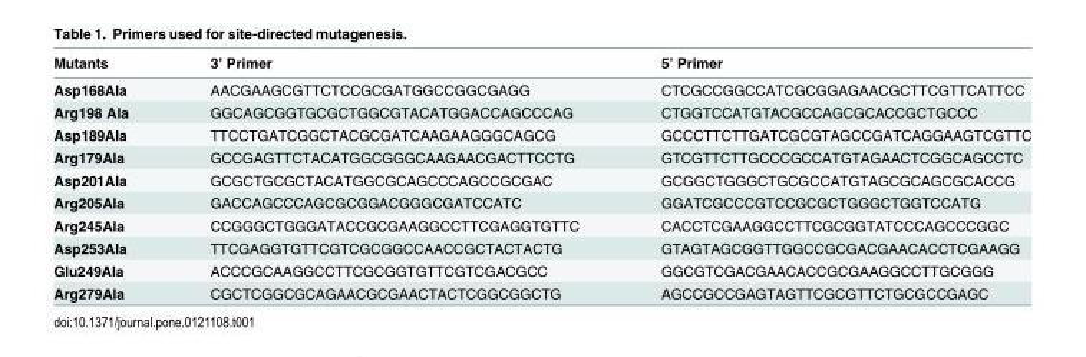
<table><thead><tr><td>Mutants</td><td>3’ Primer</td><td>5’ Primer</td></tr></thead><tbody><tr><td>Asp168Ala</td><td>AACGAAGCGTTCTCCGCGATGGCCGGCGAGG</td><td>CTCGCCGGCCATCGCGGAGAACGCTTCGTTCATTCC</td></tr><tr><td>Arg198 Ala</td><td>GGCAGCGGTGCGCTGGCGTACATGGACCAGCCCAG</td><td>CTGGTCCATGTACGCCAGCGCACCGCTGCCC</td></tr><tr><td>Asp189Ala</td><td>TTCCTGATCGGCTACGCGATCAAGAAGGGCAGCG</td><td>GCCCTTCTTGATCGCGTAGCCGATCAGGAAGTCGTTC</td></tr><tr><td>Arg179Ala</td><td>GCCGAGTTCTACATGGCGGGCAAGAACGACTTCCTG</td><td>GTCGTTCTTGCCCGCCATGTAGAACTCGGCAGCCTC</td></tr><tr><td>Asp201Ala</td><td>GCGCTGCGCTACATGGCGCAGCCCAGCCGCGAC</td><td>GCGGCTGGGCTGCGCCATGTAGCGCAGCGCACCG</td></tr><tr><td>Arg205Ala</td><td>GACCAGCCCAGCGCGGACGGGCGATCCATC</td><td>GGATCGCCCGTCCGCGCTGGGCTGGTCCATG</td></tr><tr><td>Arg245Ala</td><td>CCGGGCTGGGATACCGCGAAGGCCTTCGAGGTGTTC</td><td>CACCTCGAAGGCCTTCGCGGTATCCCAGCCCGGC</td></tr><tr><td>Asp253Ala</td><td>TTCGAGGTGTTCGTCGCGGCCAACCGCTACTACTG</td><td>GTAGTAGCGGTTGGCCGCGACGAACACCTCGAAGG</td></tr><tr><td>Glu249Ala</td><td>ACCCGCAAGGCCTTCGCGGTGTTCGTCGACGCC</td><td>GGCGTCGACGAACACCGCGAAGGCCTTGCGGG</td></tr><tr><td>Arg279Ala</td><td>CGCTCGGCGCAGAACGCGAACTACTCGGCGGCTG</td><td>AGCCGCCGAGTAGTTCGCGTTCTGCGCCGAGC</td></tr></tbody></table>